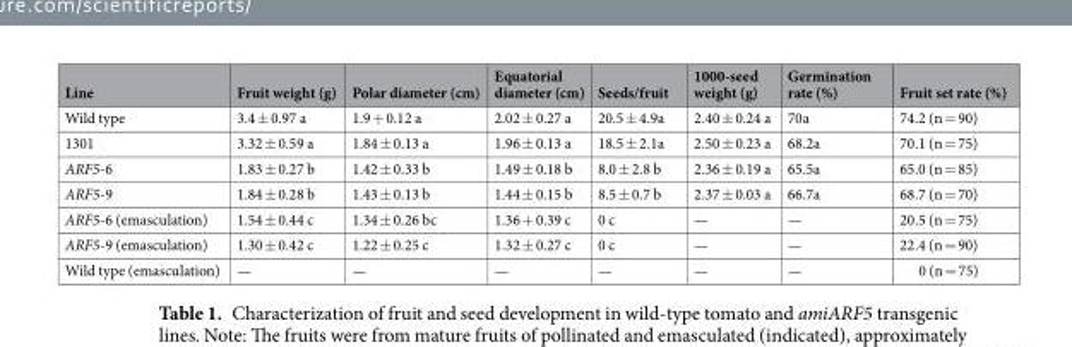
<table><thead><tr><td>Line</td><td>Fruit weight (g)</td><td>Polar diameter (cm)</td><td>Equatorial diameter (cm)</td><td>Seeds/fruit</td><td>1000-seed weight (g)</td><td>Germination rate (%)</td><td>Fruit set rate (%)</td></tr></thead><tbody><tr><td>Wild type</td><td>3.4 ± 0.97 a</td><td>1.9 + 0.12 a</td><td>2.02 ± 0.27 a</td><td>20.5 ± 4.9a</td><td>2.40 ± 0.24 a</td><td>70a</td><td>74.2 (n = 90)</td></tr><tr><td>1301</td><td>3.32 ± 0.59 a</td><td>1.84 ± 0.13 a</td><td>1.96 ± 0.13 a</td><td>18.5 ± 2.1a</td><td>2.50 ± 0.23 a</td><td>68.2a</td><td>70.1 (n = 75)</td></tr><tr><td>ARF5-6</td><td>1.83 ± 0.27 b</td><td>1.42 ± 0.33 b</td><td>1.49 ± 0.18 b</td><td>8.0 ± 2.8 b</td><td>2.36 ± 0.19 a</td><td>65.5a</td><td>65.0 (n = 85)</td></tr><tr><td>ARF5-9</td><td>1.84 ± 0.28 b</td><td>1.43 ± 0.13 b</td><td>1.44 ± 0.15 b</td><td>8.5 ± 0.7 b</td><td>2.37 ± 0.03 a</td><td>66.7a</td><td>68.7 (n = 70)</td></tr><tr><td>ARF5-6 (emasculation)</td><td>1.54 ± 0.44 c</td><td>1.34 ± 0.26 bc</td><td>1.36 + 0.39 c</td><td>0 c</td><td>—</td><td>—</td><td>20.5 (n = 75)</td></tr><tr><td>ARF5-9 (emasculation)</td><td>1.30 ± 0.42 c</td><td>1.22 ± 0.25 c</td><td>1.32 ± 0.27 c</td><td>0 c</td><td>—</td><td>—</td><td>22.4 (n = 90)</td></tr><tr><td>Wild type (emasculation)</td><td>—</td><td>—</td><td>—</td><td>—</td><td>—</td><td>—</td><td>0 (n = 75)</td></tr></tbody></table>